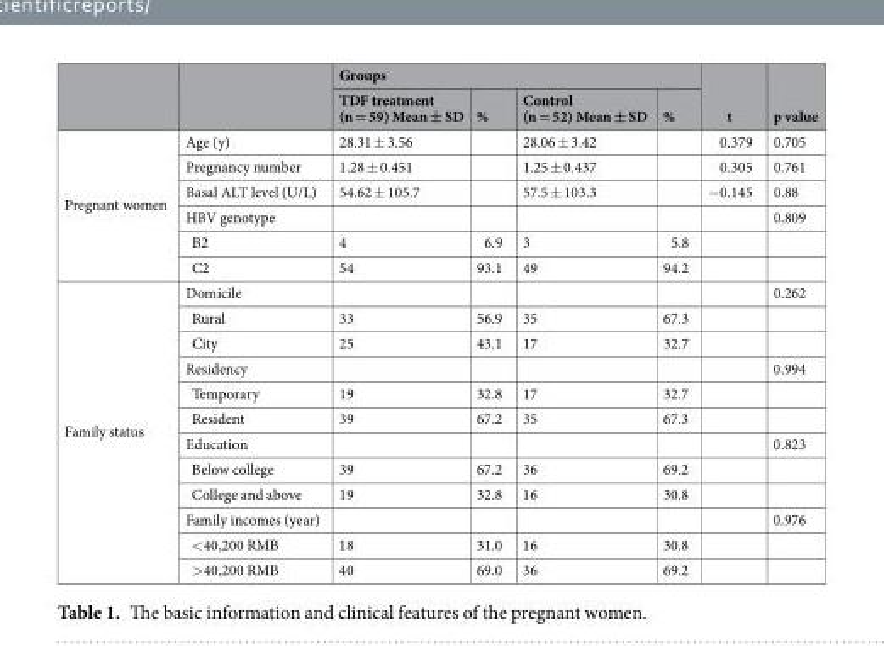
<table><thead><tr><td rowspan="2"></td><td rowspan="2"></td><td colspan="4">Groups</td><td rowspan="2">t</td><td rowspan="2">p value</td></tr><tr><td>TDF treatment (n = 59) Mean ± SD</td><td>%</td><td>Control (n = 52) Mean ± SD</td><td>%</td></tr></thead><tbody><tr><td rowspan="6">Pregnant women</td><td>Age (y)</td><td>28.31 ± 3.56</td><td></td><td>28.06 ± 3.42</td><td></td><td>0.379</td><td>0.705</td></tr><tr><td>Pregnancy number</td><td>1.28 ± 0.451</td><td></td><td>1.25 ± 0.437</td><td></td><td>0.305</td><td>0.761</td></tr><tr><td>Basal ALT level (U/L)</td><td>54.62 ± 105.7</td><td></td><td>57.5 ± 103.3</td><td></td><td>−0.145</td><td>0.88</td></tr><tr><td>HBV genotype</td><td></td><td></td><td></td><td></td><td></td><td>0.809</td></tr><tr><td>B2</td><td>4</td><td>6.9</td><td>3</td><td>5.8</td><td></td><td></td></tr><tr><td>C2</td><td>54</td><td>93.1</td><td>49</td><td>94.2</td><td></td><td></td></tr><tr><td rowspan="12">Family status</td><td>Domicile</td><td></td><td></td><td></td><td></td><td></td><td>0.262</td></tr><tr><td>Rural</td><td>33</td><td>56.9</td><td>35</td><td>67.3</td><td></td><td></td></tr><tr><td>City</td><td>25</td><td>43.1</td><td>17</td><td>32.7</td><td></td><td></td></tr><tr><td>Residency</td><td></td><td></td><td></td><td></td><td></td><td>0.994</td></tr><tr><td>Temporary</td><td>19</td><td>32.8</td><td>17</td><td>32.7</td><td></td><td></td></tr><tr><td>Resident</td><td>39</td><td>67.2</td><td>35</td><td>67.3</td><td></td><td></td></tr><tr><td>Education</td><td></td><td></td><td></td><td></td><td></td><td>0.823</td></tr><tr><td>Below college</td><td>39</td><td>67.2</td><td>36</td><td>69.2</td><td></td><td></td></tr><tr><td>College and above</td><td>19</td><td>32.8</td><td>16</td><td>30.8</td><td></td><td></td></tr><tr><td>Family incomes (year)</td><td></td><td></td><td></td><td></td><td></td><td>0.976</td></tr><tr><td>&lt;40,200 RMB</td><td>18</td><td>31.0</td><td>16</td><td>30.8</td><td></td><td></td></tr><tr><td>&gt;40,200 RMB</td><td>40</td><td>69.0</td><td>36</td><td>69.2</td><td></td><td></td></tr></tbody></table>